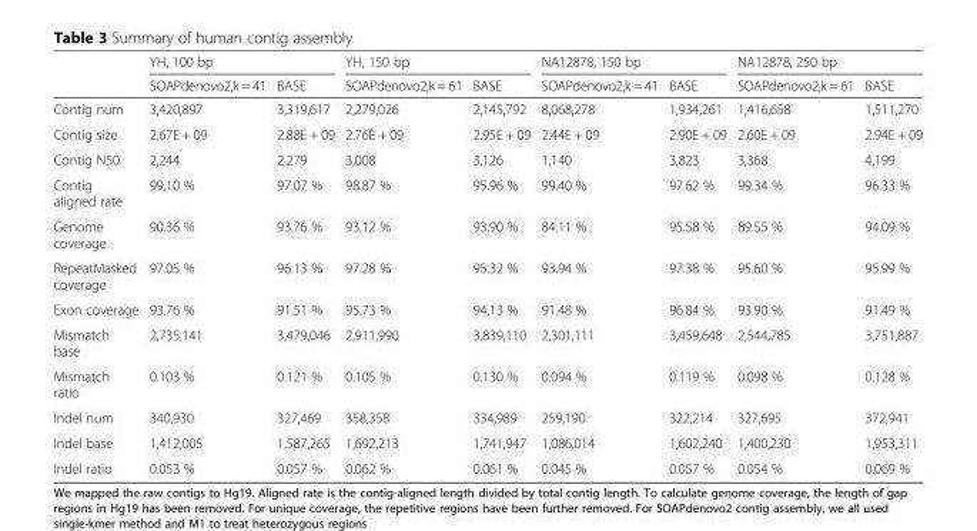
<table><thead><tr><td rowspan="2"></td><td colspan="2">YH, 100 bp</td><td colspan="2">YH, 150 bp</td><td colspan="2">NA12878, 150 bp</td><td colspan="2">NA12878, 250 bp</td></tr><tr><td>SOAPdenovo2,k = 41</td><td>BASE</td><td>SOAPdenovo2,k = 61</td><td>BASE</td><td>SOAPdenovo2,k = 41</td><td>BASE</td><td>SOAPdenovo2,k = 61</td><td>BASE</td></tr></thead><tbody><tr><td>Contig num</td><td>3,420,897</td><td>3,319,617</td><td>2,279,026</td><td>2,145,792</td><td>8,068,278</td><td>1,934,261</td><td>1,416,658</td><td>1,511,270</td></tr><tr><td>Contig size</td><td>2.67E + 09</td><td>2.88E + 09</td><td>2.76E + 09</td><td>2.95E + 09</td><td>2.44E + 09</td><td>2.90E + 09</td><td>2.60E + 09</td><td>2.94E + 09</td></tr><tr><td>Contig N50</td><td>2,244</td><td>2,279</td><td>3,008</td><td>3,126</td><td>1,140</td><td>3,823</td><td>3,368</td><td>4,199</td></tr><tr><td>Contig aligned rate</td><td>99.10 %</td><td>97.07 %</td><td>98.87 %</td><td>95.96 %</td><td>99.40 %</td><td>97.62 %</td><td>99.34 %</td><td>96.33 %</td></tr><tr><td>Genome coverage</td><td>90.36 %</td><td>93.76 %</td><td>93.12 %</td><td>93.90 %</td><td>84.11 %</td><td>95.58 %</td><td>89.55 %</td><td>94.09 %</td></tr><tr><td>RepeatMasked coverage</td><td>97.05 %</td><td>96.13 %</td><td>97.28 %</td><td>95.32 %</td><td>93.94 %</td><td>97.38 %</td><td>95.60 %</td><td>95.99 %</td></tr><tr><td>Exon coverage</td><td>93.76 %</td><td>91.51 %</td><td>95.73 %</td><td>94.13 %</td><td>91.48 %</td><td>96.84 %</td><td>93.90 %</td><td>91.49 %</td></tr><tr><td>Mismatch base</td><td>2,735,141</td><td>3,479,046</td><td>2,911,990</td><td>3,839,110</td><td>2,301,111</td><td>3,459,648</td><td>2,544,785</td><td>3,751,887</td></tr><tr><td>Mismatch ratio</td><td>0.103 %</td><td>0.121 %</td><td>0.105 %</td><td>0.130 %</td><td>0.094 %</td><td>0.119 %</td><td>0.098 %</td><td>0.128 %</td></tr><tr><td>Indel num</td><td>340,930</td><td>327,469</td><td>358,358</td><td>334,989</td><td>259,190</td><td>322,214</td><td>327,695</td><td>372,941</td></tr><tr><td>Indel base</td><td>1,412,005</td><td>1,587,265</td><td>1,692,213</td><td>1,741,947</td><td>1,086,014</td><td>1,602,240</td><td>1,400,230</td><td>1,953,311</td></tr><tr><td>Indel ratio</td><td>0.053 %</td><td>0.057 %</td><td>0.062 %</td><td>0.061 %</td><td>0.045 %</td><td>0.057 %</td><td>0.054 %</td><td>0.069 %</td></tr></tbody></table>